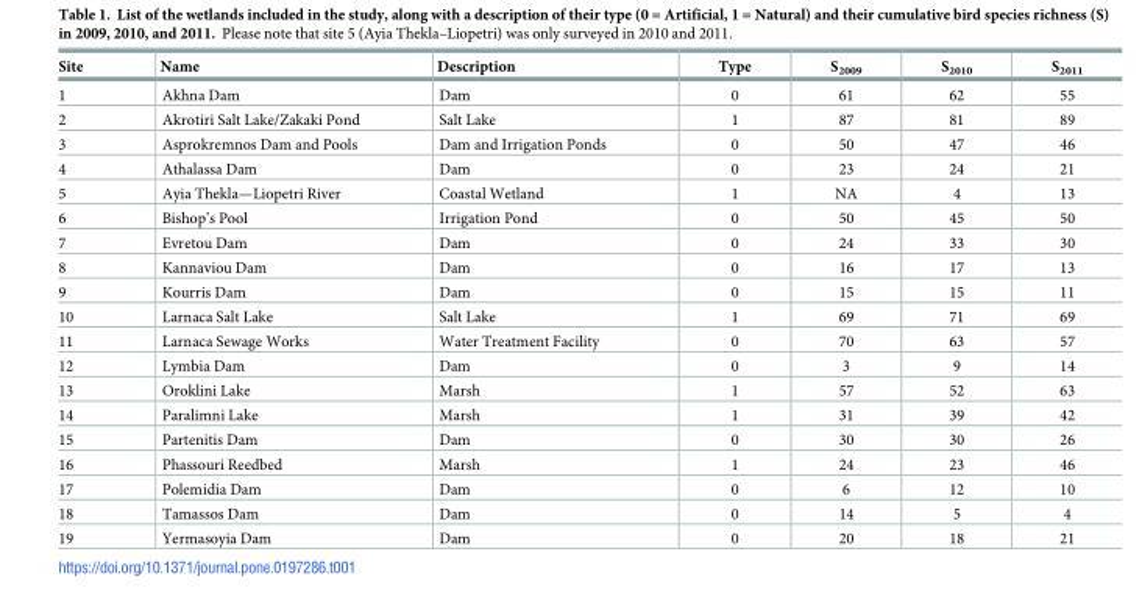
<table><thead><tr><td>Site</td><td>Name</td><td>Description</td><td>Type</td><td>S<sub>2009</sub></td><td>S<sub>2010</sub></td><td>S<sub>2011</sub></td></tr></thead><tbody><tr><td>1</td><td>Akhna Dam</td><td>Dam</td><td>0</td><td>61</td><td>62</td><td>55</td></tr><tr><td>2</td><td>Akrotiri Salt Lake/Zakaki Pond</td><td>Salt Lake</td><td>1</td><td>87</td><td>81</td><td>89</td></tr><tr><td>3</td><td>Asprokremnos Dam and Pools</td><td>Dam and Irrigation Ponds</td><td>0</td><td>50</td><td>47</td><td>46</td></tr><tr><td>4</td><td>Athalassa Dam</td><td>Dam</td><td>0</td><td>23</td><td>24</td><td>21</td></tr><tr><td>5</td><td>Ayia Thekla—Liopetri River</td><td>Coastal Wetland</td><td>1</td><td>NA</td><td>4</td><td>13</td></tr><tr><td>6</td><td>Bishop’s Pool</td><td>Irrigation Pond</td><td>0</td><td>50</td><td>45</td><td>50</td></tr><tr><td>7</td><td>Evretou Dam</td><td>Dam</td><td>0</td><td>24</td><td>33</td><td>30</td></tr><tr><td>8</td><td>Kannaviou Dam</td><td>Dam</td><td>0</td><td>16</td><td>17</td><td>13</td></tr><tr><td>9</td><td>Kourris Dam</td><td>Dam</td><td>0</td><td>15</td><td>15</td><td>11</td></tr><tr><td>10</td><td>Larnaca Salt Lake</td><td>Salt Lake</td><td>1</td><td>69</td><td>71</td><td>69</td></tr><tr><td>11</td><td>Larnaca Sewage Works</td><td>Water Treatment Facility</td><td>0</td><td>70</td><td>63</td><td>57</td></tr><tr><td>12</td><td>Lymbia Dam</td><td>Dam</td><td>0</td><td>3</td><td>9</td><td>14</td></tr><tr><td>13</td><td>Oroklini Lake</td><td>Marsh</td><td>1</td><td>57</td><td>52</td><td>63</td></tr><tr><td>14</td><td>Paralimni Lake</td><td>Marsh</td><td>1</td><td>31</td><td>39</td><td>42</td></tr><tr><td>15</td><td>Partenitis Dam</td><td>Dam</td><td>0</td><td>30</td><td>30</td><td>26</td></tr><tr><td>16</td><td>Phassouri Reedbed</td><td>Marsh</td><td>1</td><td>24</td><td>23</td><td>46</td></tr><tr><td>17</td><td>Polemidia Dam</td><td>Dam</td><td>0</td><td>6</td><td>12</td><td>10</td></tr><tr><td>18</td><td>Tamassos Dam</td><td>Dam</td><td>0</td><td>14</td><td>5</td><td>4</td></tr><tr><td>19</td><td>Yermasoyia Dam</td><td>Dam</td><td>0</td><td>20</td><td>18</td><td>21</td></tr></tbody></table>